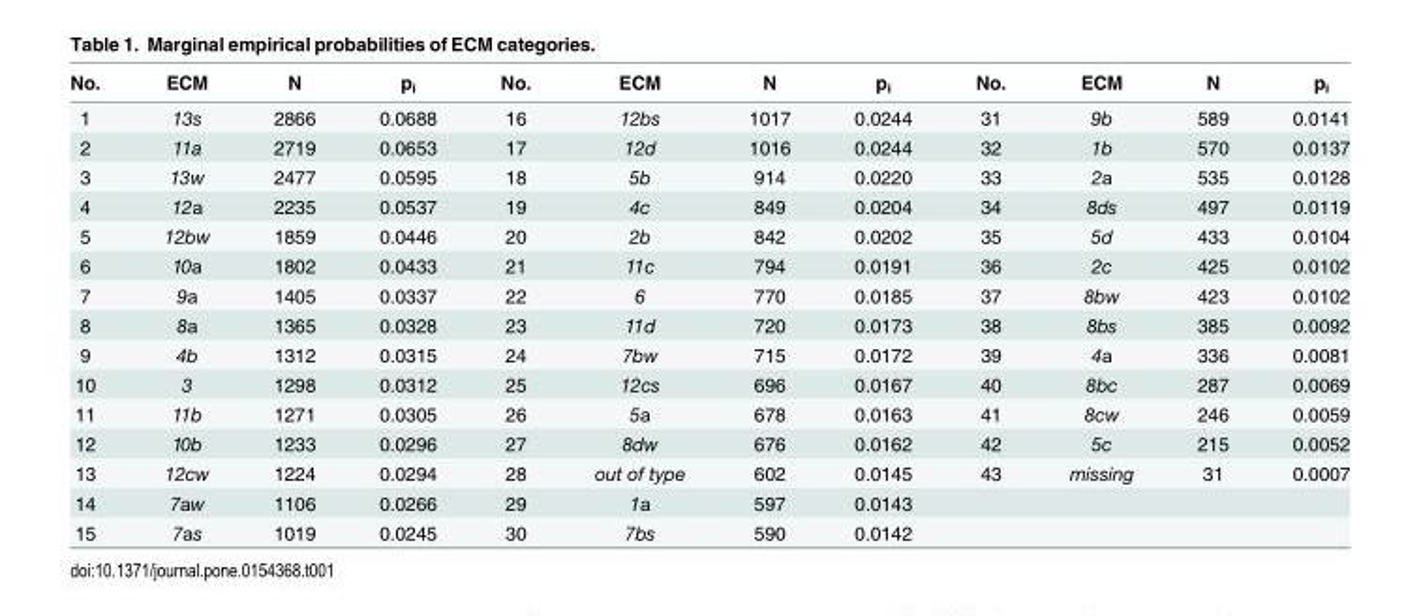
<table><thead><tr><td>No.</td><td>ECM</td><td>N</td><td>p<sub>i</sub></td><td>No.</td><td>ECM</td><td>N</td><td>p<sub>i</sub></td><td>No.</td><td>ECM</td><td>N</td><td>p<sub>i</sub></td></tr></thead><tbody><tr><td>1</td><td>13s</td><td>2866</td><td>0.0688</td><td>16</td><td>12bs</td><td>1017</td><td>0.0244</td><td>31</td><td>9b</td><td>589</td><td>0.0141</td></tr><tr><td>2</td><td>11a</td><td>2719</td><td>0.0653</td><td>17</td><td>12d</td><td>1016</td><td>0.0244</td><td>32</td><td>1b</td><td>570</td><td>0.0137</td></tr><tr><td>3</td><td>13w</td><td>2477</td><td>0.0595</td><td>18</td><td>5b</td><td>914</td><td>0.0220</td><td>33</td><td>2а</td><td>535</td><td>0.0128</td></tr><tr><td>4</td><td>12а</td><td>2235</td><td>0.0537</td><td>19</td><td>4c</td><td>849</td><td>0.0204</td><td>34</td><td>8ds</td><td>497</td><td>0.0119</td></tr><tr><td>5</td><td>12bw</td><td>1859</td><td>0.0446</td><td>20</td><td>2b</td><td>842</td><td>0.0202</td><td>35</td><td>5d</td><td>433</td><td>0.0104</td></tr><tr><td>6</td><td>10а</td><td>1802</td><td>0.0433</td><td>21</td><td>11c</td><td>794</td><td>0.0191</td><td>36</td><td>2c</td><td>425</td><td>0.0102</td></tr><tr><td>7</td><td>9а</td><td>1405</td><td>0.0337</td><td>22</td><td>6</td><td>770</td><td>0.0185</td><td>37</td><td>8bw</td><td>423</td><td>0.0102</td></tr><tr><td>8</td><td>8а</td><td>1365</td><td>0.0328</td><td>23</td><td>11d</td><td>720</td><td>0.0173</td><td>38</td><td>8bs</td><td>385</td><td>0.0092</td></tr><tr><td>9</td><td>4b</td><td>1312</td><td>0.0315</td><td>24</td><td>7bw</td><td>715</td><td>0.0172</td><td>39</td><td>4а</td><td>336</td><td>0.0081</td></tr><tr><td>10</td><td>3</td><td>1298</td><td>0.0312</td><td>25</td><td>12cs</td><td>696</td><td>0.0167</td><td>40</td><td>8bc</td><td>287</td><td>0.0069</td></tr><tr><td>11</td><td>11b</td><td>1271</td><td>0.0305</td><td>26</td><td>5а</td><td>678</td><td>0.0163</td><td>41</td><td>8cw</td><td>246</td><td>0.0059</td></tr><tr><td>12</td><td>10b</td><td>1233</td><td>0.0296</td><td>27</td><td>8dw</td><td>676</td><td>0.0162</td><td>42</td><td>5c</td><td>215</td><td>0.0052</td></tr><tr><td>13</td><td>12cw</td><td>1224</td><td>0.0294</td><td>28</td><td>out of type</td><td>602</td><td>0.0145</td><td>43</td><td>missing</td><td>31</td><td>0.0007</td></tr><tr><td>14</td><td>7аw</td><td>1106</td><td>0.0266</td><td>29</td><td>1а</td><td>597</td><td>0.0143</td><td></td><td></td><td></td><td></td></tr><tr><td>15</td><td>7аs</td><td>1019</td><td>0.0245</td><td>30</td><td>7bs</td><td>590</td><td>0.0142</td><td></td><td></td><td></td><td></td></tr></tbody></table>